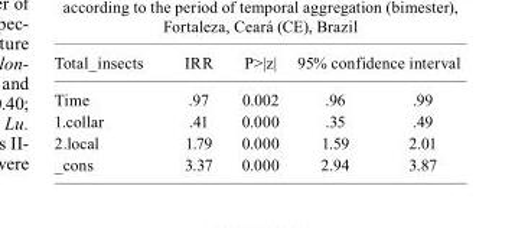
<table><thead><tr><td rowspan="2">Total_insects Time</td><td rowspan="2">IRR .97</td><td rowspan="2">P&gt;|z| 0.002</td><td colspan="2">95% confidence interval</td></tr><tr><td>.96</td><td>.99</td></tr></thead><tbody><tr><td>1.collar</td><td>.41</td><td>0.000</td><td>.35</td><td>.49</td></tr><tr><td>2.local</td><td>1.79</td><td>0.000</td><td>1.59</td><td>2.01</td></tr><tr><td>_cons</td><td>3.37</td><td>0.000</td><td>2.94</td><td>3.87</td></tr></tbody></table>